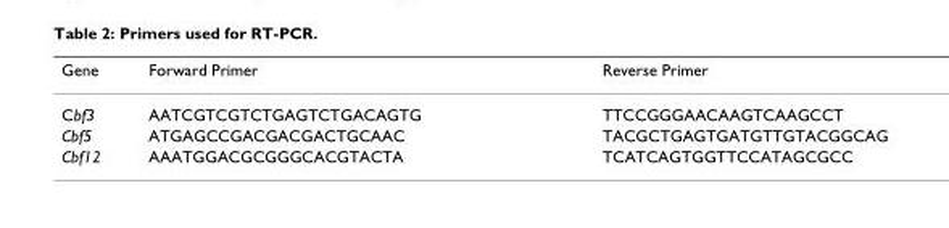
<table><thead><tr><td>Gene</td><td>Forward Primer</td><td>Reverse Primer</td></tr></thead><tbody><tr><td>Cbf3</td><td>AATCGTCGTCTGAGTCTGACAGTG</td><td>TTCCGGGAACAAGTCAAGCCT</td></tr><tr><td>Cbf5</td><td>ATGAGCCGACGACGACTGCAAC</td><td>TACGCTGAGTGATGTTGTACGGCAG</td></tr><tr><td>Cbf12</td><td>AAATGGACGCGGGCACGTACTA</td><td>TCATCAGTGGTTCCATAGCGCC</td></tr></tbody></table>